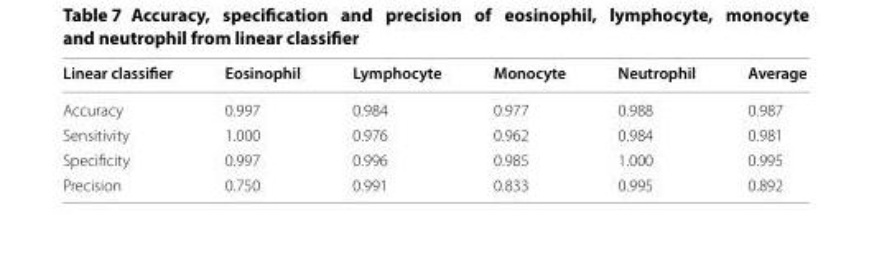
<table><thead><tr><td>Linear classifier</td><td>Eosinophil</td><td>Lymphocyte</td><td>Monocyte</td><td>Neutrophil</td><td>Average</td></tr></thead><tbody><tr><td>Accuracy</td><td>0.997</td><td>0.984</td><td>0.977</td><td>0.988</td><td>0.987</td></tr><tr><td>Sensitivity</td><td>1.000</td><td>0.976</td><td>0.962</td><td>0.984</td><td>0.981</td></tr><tr><td>Specificity</td><td>0.997</td><td>0.996</td><td>0.985</td><td>1.000</td><td>0.995</td></tr><tr><td>Precision</td><td>0.750</td><td>0.991</td><td>0.833</td><td>0.995</td><td>0.892</td></tr></tbody></table>